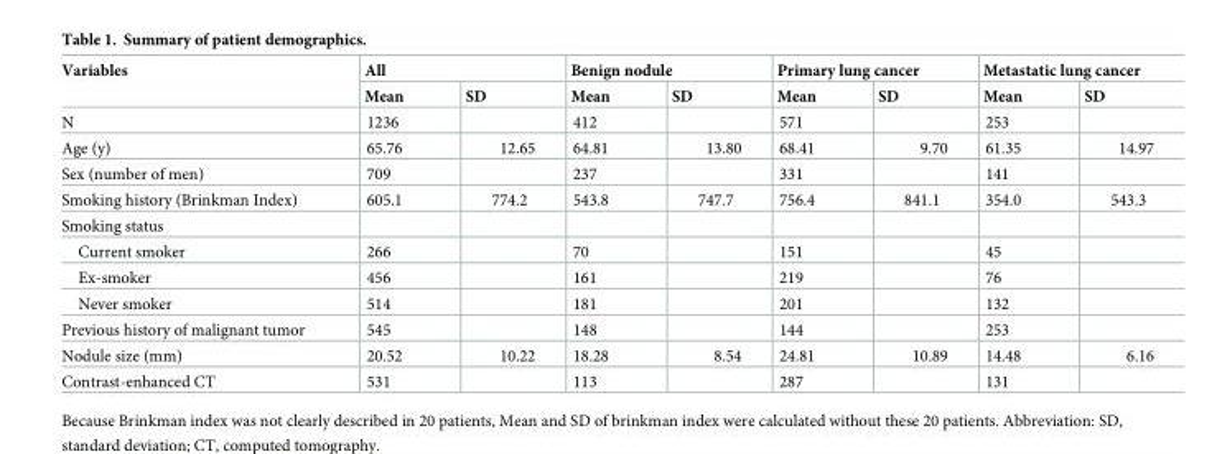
<table><thead><tr><td rowspan="2">Variables</td><td colspan="2">All</td><td colspan="2">Benign nodule</td><td colspan="2">Primary lung cancer</td><td colspan="2">Metastatic lung cancer</td></tr><tr><td>Mean</td><td>SD</td><td>Mean</td><td>SD</td><td>Mean</td><td>SD</td><td>Mean</td><td>SD</td></tr></thead><tbody><tr><td>N</td><td>1236</td><td></td><td>412</td><td></td><td>571</td><td></td><td>253</td><td></td></tr><tr><td>Age (y)</td><td>65.76</td><td>12.65</td><td>64.81</td><td>13.80</td><td>68.41</td><td>9.70</td><td>61.35</td><td>14.97</td></tr><tr><td>Sex (number of men)</td><td>709</td><td></td><td>237</td><td></td><td>331</td><td></td><td>141</td><td></td></tr><tr><td>Smoking history (Brinkman Index)</td><td>605.1</td><td>774.2</td><td>543.8</td><td>747.7</td><td>756.4</td><td>841.1</td><td>354.0</td><td>543.3</td></tr><tr><td colspan="9">Smoking status</td></tr><tr><td>Current smoker</td><td>266</td><td></td><td>70</td><td></td><td>151</td><td></td><td>45</td><td></td></tr><tr><td>Ex-smoker</td><td>456</td><td></td><td>161</td><td></td><td>219</td><td></td><td>76</td><td></td></tr><tr><td>Never smoker</td><td>514</td><td></td><td>181</td><td></td><td>201</td><td></td><td>132</td><td></td></tr><tr><td>Previous history of malignant tumor</td><td>545</td><td></td><td>148</td><td></td><td>144</td><td></td><td>253</td><td></td></tr><tr><td>Nodule size (mm)</td><td>20.52</td><td>10.22</td><td>18.28</td><td>8.54</td><td>24.81</td><td>10.89</td><td>14.48</td><td>6.16</td></tr><tr><td>Contrast-enhanced CT</td><td>531</td><td></td><td>113</td><td></td><td>287</td><td></td><td>131</td><td></td></tr></tbody></table>